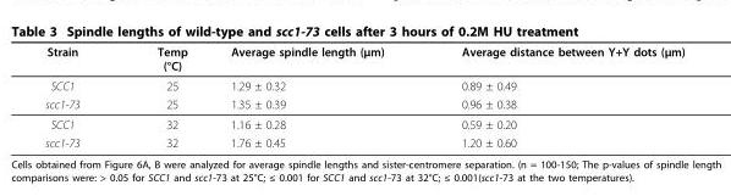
<table><thead><tr><td>Strain</td><td>Temp (°C)</td><td>Average spindle length (μm)</td><td>Average distance between Y+Y dots (μm)</td></tr></thead><tbody><tr><td>SCC1</td><td>25</td><td>1.29 ± 0.32</td><td>0.89 ± 0.49</td></tr><tr><td>scc1-73</td><td>25</td><td>1.35 ± 0.39</td><td>0.96 ± 0.38</td></tr><tr><td>SCC1</td><td>32</td><td>1.16 ± 0.28</td><td>0.59 ± 0.20</td></tr><tr><td>scc1-73</td><td>32</td><td>1.76 ± 0.45</td><td>1.20 ± 0.60</td></tr></tbody></table>